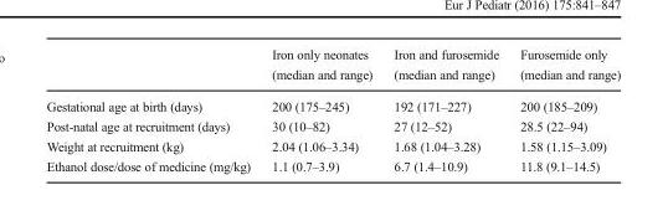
<table><thead><tr><td></td><td>Iron only neonates (median and range)</td><td>Iron and furosemide (median and range)</td><td>Furosemide only (median and range)</td></tr></thead><tbody><tr><td>Gestational age at birth (days)</td><td>200 (175–245)</td><td>192 (171–227)</td><td>200 (185–209)</td></tr><tr><td>Post-natal age at recruitment (days)</td><td>30 (10–82)</td><td>27 (12–52)</td><td>28.5 (22–94)</td></tr><tr><td>Weight at recruitment (kg)</td><td>2.04 (1.06–3.34)</td><td>1.68 (1.04–3.28)</td><td>1.58 (1.15–3.09)</td></tr><tr><td>Ethanol dose/dose of medicine (mg/kg)</td><td>1.1 (0.7–3.9)</td><td>6.7 (1.4–10.9)</td><td>11.8 (9.1–14.5)</td></tr></tbody></table>